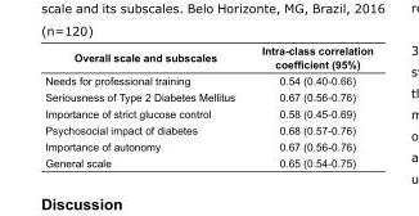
<table><tbody><tr><td>Overall scale and subscales</td><td>Intra-class correlation coefficient (95%)</td></tr><tr><td>Needs for professional training</td><td>0.54 (0.40-0.66)</td></tr><tr><td>Seriousness of Type 2 Diabetes Mellitus</td><td>0.67 (0.56-0.76)</td></tr><tr><td>Importance of strict glucose control</td><td>0.58 (0.45-0.69)</td></tr><tr><td>Psychosocial impact of diabetes</td><td>0.68 (0.57-0.76)</td></tr><tr><td>Importance of autonomy</td><td>0.67 (0.56-0.76)</td></tr><tr><td>General scale</td><td>0.65 (0.54-0.75)</td></tr></tbody></table>